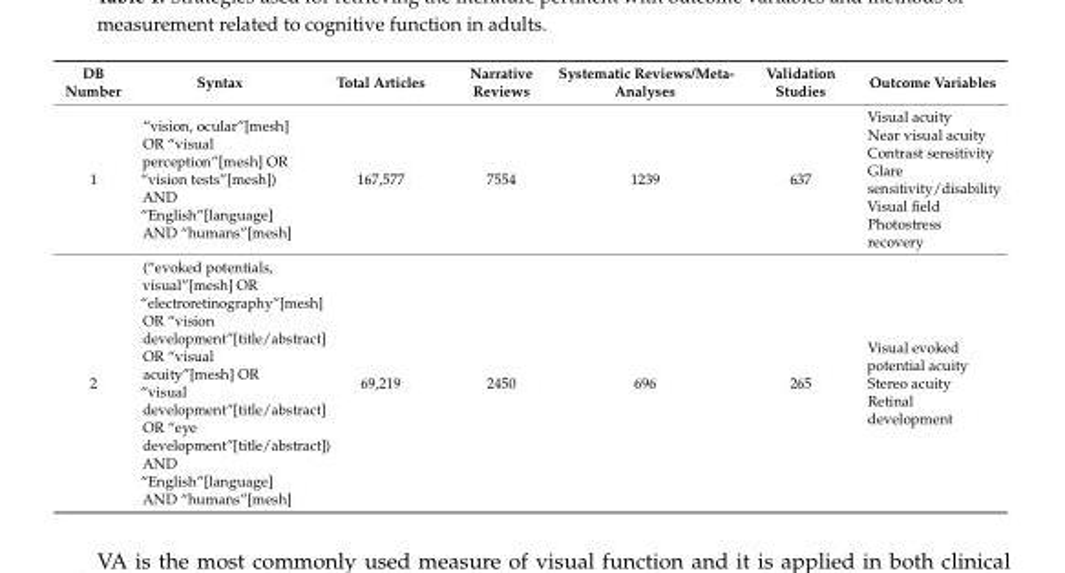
<table><thead><tr><td>DB Number</td><td>Syntax</td><td>Total Articles</td><td>Narrative Reviews</td><td>Systematic Reviews/Meta- Analyses</td><td>Validation Studies</td><td>Outcome Variables</td></tr></thead><tbody><tr><td>1</td><td>“vision, ocular”[mesh] OR “visual perception”[mesh] OR “vision tests”[mesh]) AND “English”[language] AND “humans”[mesh]</td><td>167,577</td><td>7554</td><td>1239</td><td>637</td><td>Visual acuity Near visual acuity Contrast sensitivity Glare sensitivity/disability Visual field Photostress recovery</td></tr><tr><td>2</td><td>(“evoked potentials, visual”[mesh] OR “electroretinography”[mesh] OR “vision development”[title/abstract] OR “visual acuity”[mesh] OR “visual development”[title/abstract] OR “eye development”[title/abstract]) AND “English”[language] AND “humans”[mesh]</td><td>69,219</td><td>2450</td><td>696</td><td>265</td><td>Visual evoked potential acuity Stereo acuity Retinal development</td></tr></tbody></table>